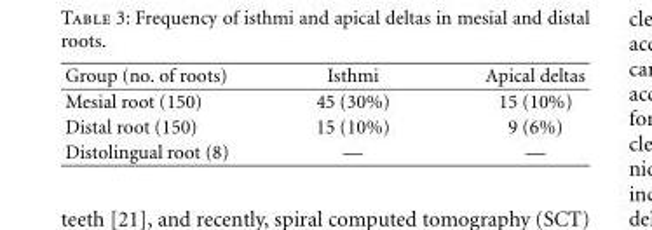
<table><thead><tr><td>Group (no. of roots)</td><td>Isthmi</td><td>Apical deltas</td></tr></thead><tbody><tr><td>Mesial root (150)</td><td>45 (30%)</td><td>15 (10%)</td></tr><tr><td>Distal root (150)</td><td>15 (10%)</td><td>9 (6%)</td></tr><tr><td>Distolingual root (8)</td><td>—</td><td>—</td></tr></tbody></table>